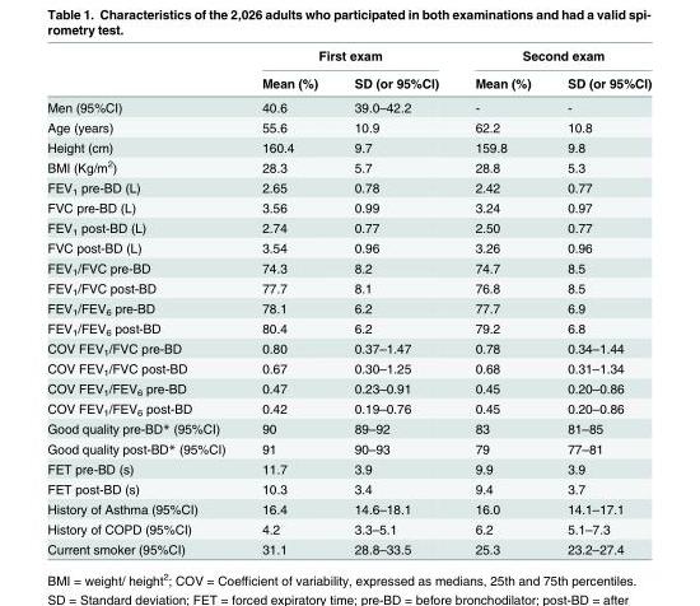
<table><thead><tr><td rowspan="2"></td><td colspan="2">First exam</td><td colspan="2">Second exam</td></tr><tr><td>Mean (%)</td><td>SD (or 95%CI)</td><td>Mean (%)</td><td>SD (or 95%CI)</td></tr></thead><tbody><tr><td>Men (95%CI)</td><td>40.6</td><td>39.0–42.2</td><td>-</td><td>-</td></tr><tr><td>Age (years)</td><td>55.6</td><td>10.9</td><td>62.2</td><td>10.8</td></tr><tr><td>Height (cm)</td><td>160.4</td><td>9.7</td><td>159.8</td><td>9.8</td></tr><tr><td>BMI (Kg/m<sup>2</sup>)</td><td>28.3</td><td>5.7</td><td>28.8</td><td>5.3</td></tr><tr><td>FEV<sub>1</sub> pre-BD (L)</td><td>2.65</td><td>0.78</td><td>2.42</td><td>0.77</td></tr><tr><td>FVC pre-BD (L)</td><td>3.56</td><td>0.99</td><td>3.24</td><td>0.97</td></tr><tr><td>FEV<sub>1</sub> post-BD (L)</td><td>2.74</td><td>0.77</td><td>2.50</td><td>0.77</td></tr><tr><td>FVC post-BD (L)</td><td>3.54</td><td>0.96</td><td>3.26</td><td>0.96</td></tr><tr><td>FEV<sub>1</sub>/FVC pre-BD</td><td>74.3</td><td>8.2</td><td>74.7</td><td>8.5</td></tr><tr><td>FEV<sub>1</sub>/FVC post-BD</td><td>77.7</td><td>8.1</td><td>76.8</td><td>8.5</td></tr><tr><td>FEV<sub>1</sub>/FEV<sub>6</sub> pre-BD</td><td>78.1</td><td>6.2</td><td>77.7</td><td>6.9</td></tr><tr><td>FEV<sub>1</sub>/FEV<sub>6</sub> post-BD</td><td>80.4</td><td>6.2</td><td>79.2</td><td>6.8</td></tr><tr><td>COV FEV<sub>1</sub>/FVC pre-BD</td><td>0.80</td><td>0.37–1.47</td><td>0.78</td><td>0.34–1.44</td></tr><tr><td>COV FEV<sub>1</sub>/FVC post-BD</td><td>0.67</td><td>0.30–1.25</td><td>0.68</td><td>0.31–1.34</td></tr><tr><td>COV FEV<sub>1</sub>/FEV<sub>6</sub> pre-BD</td><td>0.47</td><td>0.23–0.91</td><td>0.45</td><td>0.20–0.86</td></tr><tr><td>COV FEV<sub>1</sub>/FEV<sub>6</sub> post-BD</td><td>0.42</td><td>0.19–0.76</td><td>0.45</td><td>0.20–0.86</td></tr><tr><td>Good quality pre-BD* (95%CI)</td><td>90</td><td>89–92</td><td>83</td><td>81–85</td></tr><tr><td>Good quality post-BD* (95%CI)</td><td>91</td><td>90–93</td><td>79</td><td>77–81</td></tr><tr><td>FET pre-BD (s)</td><td>11.7</td><td>3.9</td><td>9.9</td><td>3.9</td></tr><tr><td>FET post-BD (s)</td><td>10.3</td><td>3.4</td><td>9.4</td><td>3.7</td></tr><tr><td>History of Asthma (95%CI)</td><td>16.4</td><td>14.6–18.1</td><td>16.0</td><td>14.1–17.1</td></tr><tr><td>History of COPD (95%CI)</td><td>4.2</td><td>3.3–5.1</td><td>6.2</td><td>5.1–7.3</td></tr><tr><td>Current smoker (95%CI)</td><td>31.1</td><td>28.8–33.5</td><td>25.3</td><td>23.2–27.4</td></tr></tbody></table>